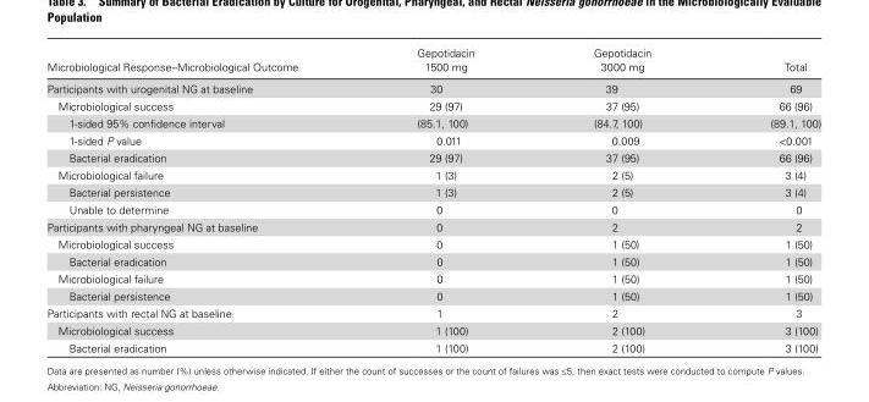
<table><thead><tr><td>Microbiological Response–Microbiological Outcome</td><td>Gepotidacin 1500 mg</td><td>Gepotidacin 3000 mg</td><td>Total</td></tr></thead><tbody><tr><td>Participants with urogenital NG at baseline</td><td>30</td><td>39</td><td>69</td></tr><tr><td>Microbiological success</td><td>29 (97)</td><td>37 (95)</td><td>66 (96)</td></tr><tr><td>1-sided 95% confidence interval</td><td>(85.1, 100)</td><td>(84.7, 100)</td><td>(89.1, 100)</td></tr><tr><td>1-sided P value</td><td>0.011</td><td>0.009</td><td>&lt;0.001</td></tr><tr><td>Bacterial eradication</td><td>29 (97)</td><td>37 (95)</td><td>66 (96)</td></tr><tr><td>Microbiological failure</td><td>1 (3)</td><td>2 (5)</td><td>3 (4)</td></tr><tr><td>Bacterial persistence</td><td>1 (3)</td><td>2 (5)</td><td>3 (4)</td></tr><tr><td>Unable to determine</td><td>0</td><td>0</td><td>0</td></tr><tr><td>Participants with pharyngeal NG at baseline</td><td>0</td><td>2</td><td>2</td></tr><tr><td>Microbiological success</td><td>0</td><td>1 (50)</td><td>1 (50)</td></tr><tr><td>Bacterial eradication</td><td>0</td><td>1 (50)</td><td>1 (50)</td></tr><tr><td>Microbiological failure</td><td>0</td><td>1 (50)</td><td>1 (50)</td></tr><tr><td>Bacterial persistence</td><td>0</td><td>1 (50)</td><td>1 (50)</td></tr><tr><td>Participants with rectal NG at baseline</td><td>1</td><td>2</td><td>3</td></tr><tr><td>Microbiological success</td><td>1 (100)</td><td>2 (100)</td><td>3 (100)</td></tr><tr><td>Bacterial eradication</td><td>1 (100)</td><td>2 (100)</td><td>3 (100)</td></tr></tbody></table>